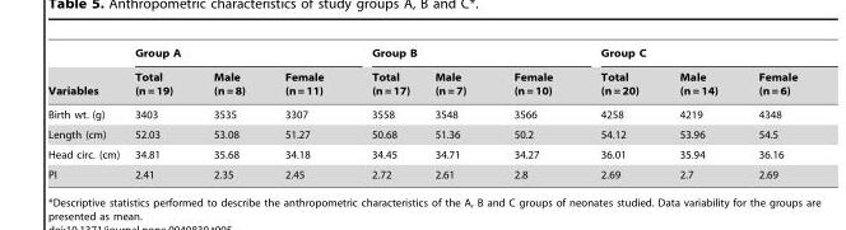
<table><thead><tr><td rowspan="2">Variables</td><td colspan="3">Group A</td><td colspan="3">Group B</td><td colspan="3">Group C</td></tr><tr><td>Total (n = 19)</td><td>Male (n = 8)</td><td>Female (n = 11)</td><td>Total (n = 17)</td><td>Male (n = 7)</td><td>Female (n = 10)</td><td>Total (n = 20)</td><td>Male (n = 14)</td><td>Female (n = 6)</td></tr></thead><tbody><tr><td>Birth wt. (g)</td><td>3403</td><td>3535</td><td>3307</td><td>3558</td><td>3548</td><td>3566</td><td>4258</td><td>4219</td><td>4348</td></tr><tr><td>Length (cm)</td><td>52.03</td><td>53.08</td><td>51.27</td><td>50.68</td><td>51.36</td><td>50.2</td><td>54.12</td><td>53.96</td><td>54.5</td></tr><tr><td>Head circ. (cm)</td><td>34.81</td><td>35.68</td><td>34.18</td><td>34.45</td><td>34.71</td><td>34.27</td><td>36.01</td><td>35.94</td><td>36.16</td></tr><tr><td>PI</td><td>2.41</td><td>2.35</td><td>2.45</td><td>2.72</td><td>2.61</td><td>2.8</td><td>2.69</td><td>2.7</td><td>2.69</td></tr></tbody></table>